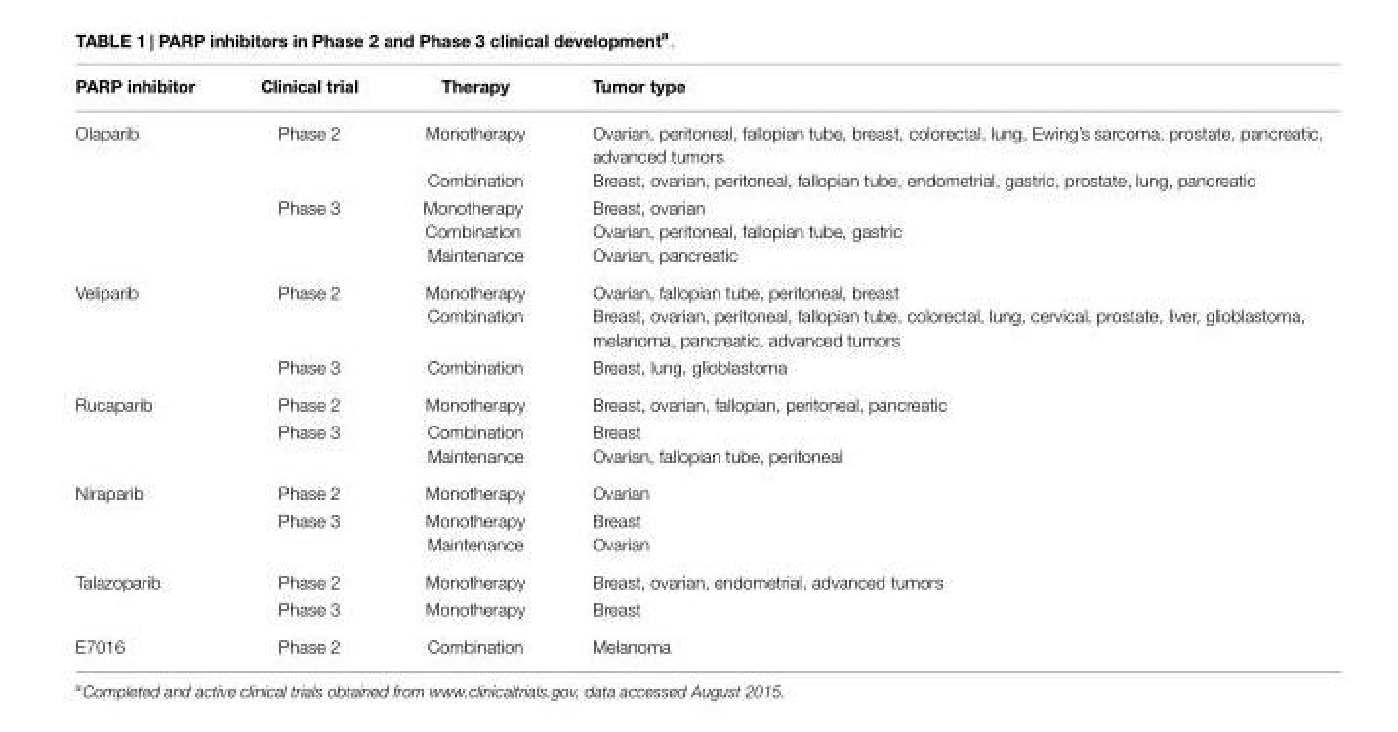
<table><thead><tr><td>PARP inhibitor</td><td>Clinical trial</td><td>Therapy</td><td>Tumor type</td></tr></thead><tbody><tr><td rowspan="5">Olaparib</td><td>Phase 2</td><td>Monotherapy</td><td>Ovarian, peritoneal, fallopian tube, breast, colorectal, lung, Ewing’s sarcoma, prostate, pancreatic, advanced tumors</td></tr><tr><td></td><td>Combination</td><td>Breast, ovarian, peritoneal, fallopian tube, endometrial, gastric, prostate, lung, pancreatic</td></tr><tr><td>Phase 3</td><td>Monotherapy</td><td>Breast, ovarian</td></tr><tr><td></td><td>Combination</td><td>Ovarian, peritoneal, fallopian tube, gastric</td></tr><tr><td></td><td>Maintenance</td><td>Ovarian, pancreatic</td></tr><tr><td rowspan="3">Veliparib</td><td>Phase 2</td><td>Monotherapy</td><td>Ovarian, fallopian tube, peritoneal, breast</td></tr><tr><td></td><td>Combination</td><td>Breast, ovarian, peritoneal, fallopian tube, colorectal, lung, cervical, prostate, liver, glioblastoma, melanoma, pancreatic, advanced tumors</td></tr><tr><td>Phase 3</td><td>Combination</td><td>Breast, lung, glioblastoma</td></tr><tr><td rowspan="3">Rucaparib</td><td>Phase 2</td><td>Monotherapy</td><td>Breast, ovarian, fallopian, peritoneal, pancreatic</td></tr><tr><td>Phase 3</td><td>Combination</td><td>Breast</td></tr><tr><td></td><td>Maintenance</td><td>Ovarian, fallopian tube, peritoneal</td></tr><tr><td rowspan="3">Niraparib</td><td>Phase 2</td><td>Monotherapy</td><td>Ovarian</td></tr><tr><td>Phase 3</td><td>Monotherapy</td><td>Breast</td></tr><tr><td></td><td>Maintenance</td><td>Ovarian</td></tr><tr><td rowspan="2">Talazoparib</td><td>Phase 2</td><td>Monotherapy</td><td>Breast, ovarian, endometrial, advanced tumors</td></tr><tr><td>Phase 3</td><td>Monotherapy</td><td>Breast</td></tr><tr><td>E7016</td><td>Phase 2</td><td>Combination</td><td>Melanoma</td></tr></tbody></table>